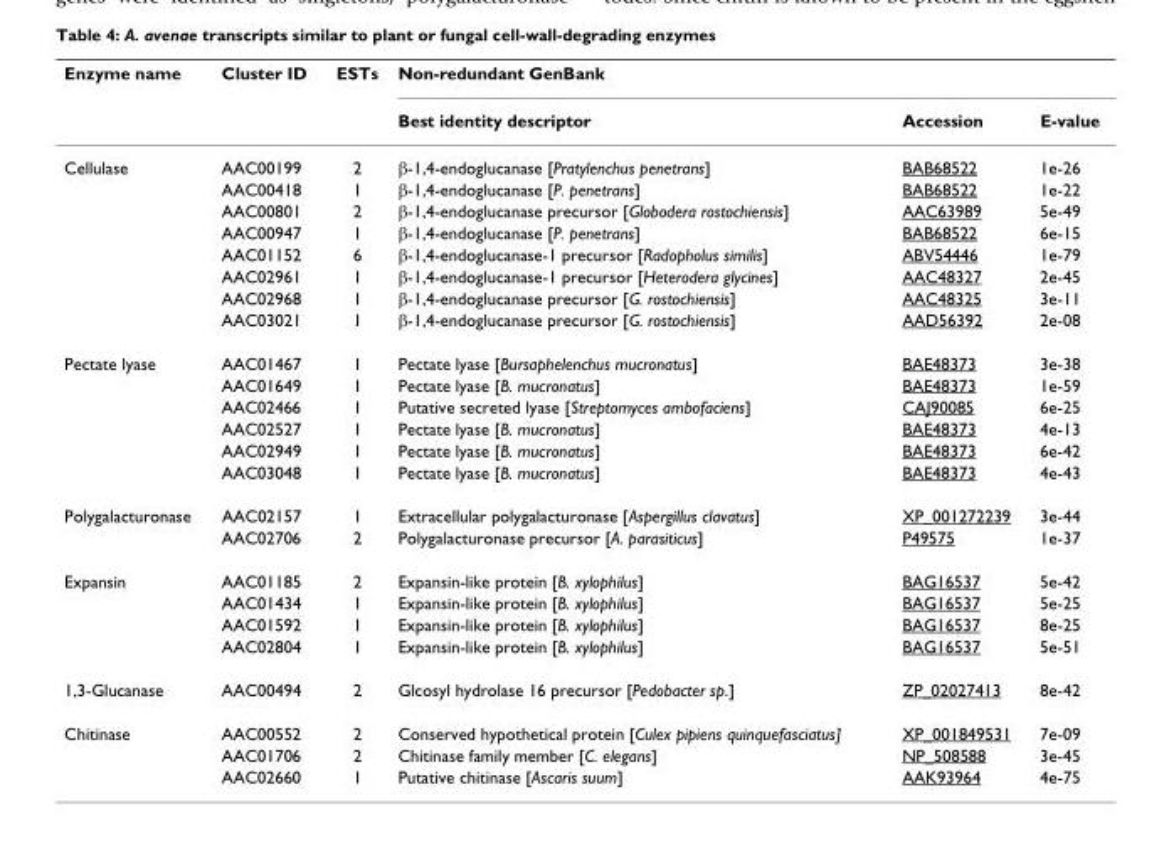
<table><thead><tr><td rowspan="2">Enzyme name</td><td rowspan="2">Cluster ID</td><td rowspan="2">ESTs</td><td colspan="3">Non-redundant GenBank</td></tr><tr><td>Best identity descriptor</td><td>Accession</td><td>E-value</td></tr></thead><tbody><tr><td rowspan="8">Cellulase</td><td>AAC00199</td><td>2</td><td>β-1,4-endoglucanase [Pratylenchus penetrans]</td><td>BAB68522</td><td>1e-26</td></tr><tr><td>AAC00418</td><td>1</td><td>β-1,4-endoglucanase [P. penetrans]</td><td>BAB68522</td><td>1e-22</td></tr><tr><td>AAC00801</td><td>2</td><td>β-1,4-endoglucanase precursor [Globodera rostochiensis]</td><td>AAC63989</td><td>5e-49</td></tr><tr><td>AAC00947</td><td>1</td><td>β-1,4-endoglucanase [P. penetrans]</td><td>BAB68522</td><td>6e-15</td></tr><tr><td>AAC01152</td><td>6</td><td>β-1,4-endoglucanase-1 precursor [Radopholus similis]</td><td>ABV54446</td><td>1e-79</td></tr><tr><td>AAC02961</td><td>1</td><td>β-1,4-endoglucanase-1 precursor [Heterodera glycines]</td><td>AAC48327</td><td>2e-45</td></tr><tr><td>AAC02968</td><td>1</td><td>β-1,4-endoglucanase precursor [G. rostochiensis]</td><td>AAC48325</td><td>3e-11</td></tr><tr><td>AAC03021</td><td>1</td><td>β-1,4-endoglucanase precursor [G. rostochiensis]</td><td>AAD56392</td><td>2e-08</td></tr><tr><td rowspan="6">Pectate lyase</td><td>AAC01467</td><td>1</td><td>Pectate lyase [Bursaphelenchus mucronatus]</td><td>BAE48373</td><td>3e-38</td></tr><tr><td>AAC01649</td><td>1</td><td>Pectate lyase [B. mucronatus]</td><td>BAE48373</td><td>1e-59</td></tr><tr><td>AAC02466</td><td>1</td><td>Putative secreted lyase [Streptomyces ambofaciens]</td><td>CAJ90085</td><td>6e-25</td></tr><tr><td>AAC02527</td><td>1</td><td>Pectate lyase [B. mucronatus]</td><td>BAE48373</td><td>4e-13</td></tr><tr><td>AAC02949</td><td>1</td><td>Pectate lyase [B. mucronatus]</td><td>BAE48373</td><td>6e-42</td></tr><tr><td>AAC03048</td><td>1</td><td>Pectate lyase [B. mucronatus]</td><td>BAE48373</td><td>4e-43</td></tr><tr><td rowspan="2">Polygalacturonase</td><td>AAC02157</td><td>1</td><td>Extracellular polygalacturonase [Aspergillus clavatus]</td><td>XP_001272239</td><td>3e-44</td></tr><tr><td>AAC02706</td><td>2</td><td>Polygalacturonase precursor [A. parasiticus]</td><td>P49575</td><td>1e-37</td></tr><tr><td rowspan="4">Expansin</td><td>AAC01185</td><td>2</td><td>Expansin-like protein [B. xylophilus]</td><td>BAG16537</td><td>5e-42</td></tr><tr><td>AAC01434</td><td>1</td><td>Expansin-like protein [B. xylophilus]</td><td>BAG16537</td><td>5e-25</td></tr><tr><td>AAC01592</td><td>1</td><td>Expansin-like protein [B. xylophilus]</td><td>BAG16537</td><td>8e-25</td></tr><tr><td>AAC02804</td><td>1</td><td>Expansin-like protein [B. xylophilus]</td><td>BAG16537</td><td>5e-51</td></tr><tr><td>1,3-Glucanase</td><td>AAC00494</td><td>2</td><td>Glcosyl hydrolase 16 precursor [Pedobacter sp.]</td><td>ZP_02027413</td><td>8e-42</td></tr><tr><td rowspan="3">Chitinase</td><td>AAC00552</td><td>2</td><td>Conserved hypothetical protein [Culex pipiens quinquefasciatus]</td><td>XP_001849531</td><td>7e-09</td></tr><tr><td>AAC01706</td><td>2</td><td>Chitinase family member [C. elegans]</td><td>NP_508588</td><td>3e-45</td></tr><tr><td>AAC02660</td><td>1</td><td>Putative chitinase [Ascaris suum]</td><td>AAK93964</td><td>4e-75</td></tr></tbody></table>